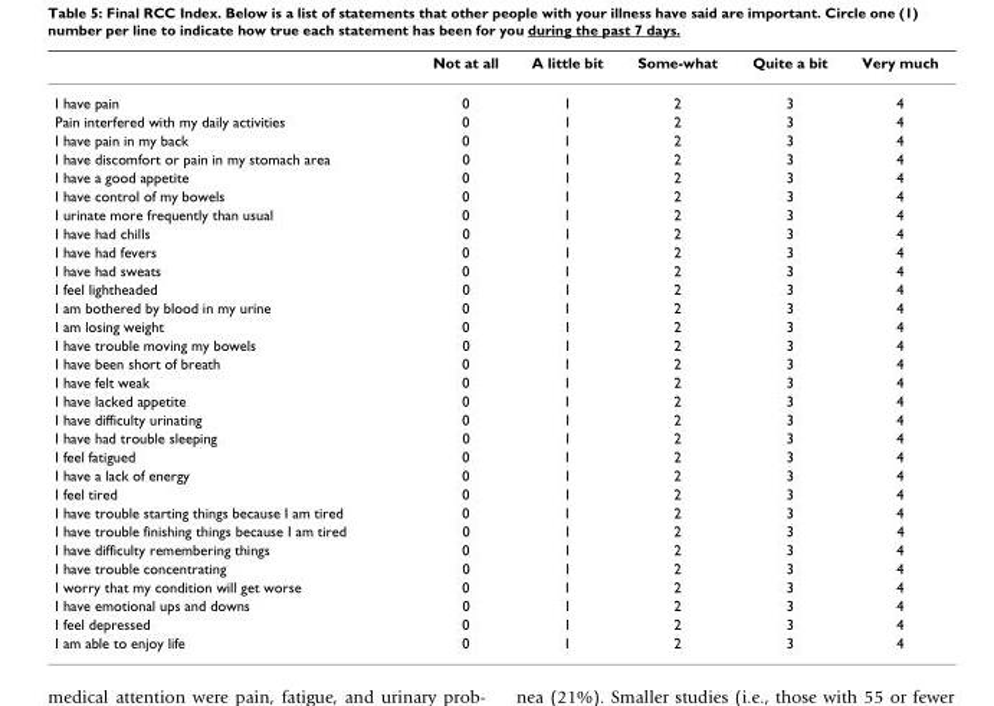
<table><thead><tr><td></td><td>Not at all</td><td>A little bit</td><td>Some-what</td><td>Quite a bit</td><td>Very much</td></tr></thead><tbody><tr><td>I have pain</td><td>0</td><td>1</td><td>2</td><td>3</td><td>4</td></tr><tr><td>Pain interfered with my daily activities</td><td>0</td><td>1</td><td>2</td><td>3</td><td>4</td></tr><tr><td>I have pain in my back</td><td>0</td><td>1</td><td>2</td><td>3</td><td>4</td></tr><tr><td>I have discomfort or pain in my stomach area</td><td>0</td><td>1</td><td>2</td><td>3</td><td>4</td></tr><tr><td>I have a good appetite</td><td>0</td><td>1</td><td>2</td><td>3</td><td>4</td></tr><tr><td>I have control of my bowels</td><td>0</td><td>1</td><td>2</td><td>3</td><td>4</td></tr><tr><td>I urinate more frequently than usual</td><td>0</td><td>1</td><td>2</td><td>3</td><td>4</td></tr><tr><td>I have had chills</td><td>0</td><td>1</td><td>2</td><td>3</td><td>4</td></tr><tr><td>I have had fevers</td><td>0</td><td>1</td><td>2</td><td>3</td><td>4</td></tr><tr><td>I have had sweats</td><td>0</td><td>1</td><td>2</td><td>3</td><td>4</td></tr><tr><td>I feel lightheaded</td><td>0</td><td>1</td><td>2</td><td>3</td><td>4</td></tr><tr><td>I am bothered by blood in my urine</td><td>0</td><td>1</td><td>2</td><td>3</td><td>4</td></tr><tr><td>I am losing weight</td><td>0</td><td>1</td><td>2</td><td>3</td><td>4</td></tr><tr><td>I have trouble moving my bowels</td><td>0</td><td>1</td><td>2</td><td>3</td><td>4</td></tr><tr><td>I have been short of breath</td><td>0</td><td>1</td><td>2</td><td>3</td><td>4</td></tr><tr><td>I have felt weak</td><td>0</td><td>1</td><td>2</td><td>3</td><td>4</td></tr><tr><td>I have lacked appetite</td><td>0</td><td>1</td><td>2</td><td>3</td><td>4</td></tr><tr><td>I have difficulty urinating</td><td>0</td><td>1</td><td>2</td><td>3</td><td>4</td></tr><tr><td>I have had trouble sleeping</td><td>0</td><td>1</td><td>2</td><td>3</td><td>4</td></tr><tr><td>I feel fatigued</td><td>0</td><td>1</td><td>2</td><td>3</td><td>4</td></tr><tr><td>I have a lack of energy</td><td>0</td><td>1</td><td>2</td><td>3</td><td>4</td></tr><tr><td>I feel tired</td><td>0</td><td>1</td><td>2</td><td>3</td><td>4</td></tr><tr><td>I have trouble starting things because I am tired</td><td>0</td><td>1</td><td>2</td><td>3</td><td>4</td></tr><tr><td>I have trouble finishing things because I am tired</td><td>0</td><td>1</td><td>2</td><td>3</td><td>4</td></tr><tr><td>I have difficulty remembering things</td><td>0</td><td>1</td><td>2</td><td>3</td><td>4</td></tr><tr><td>I have trouble concentrating</td><td>0</td><td>1</td><td>2</td><td>3</td><td>4</td></tr><tr><td>I worry that my condition will get worse</td><td>0</td><td>1</td><td>2</td><td>3</td><td>4</td></tr><tr><td>I have emotional ups and downs</td><td>0</td><td>1</td><td>2</td><td>3</td><td>4</td></tr><tr><td>I feel depressed</td><td>0</td><td>1</td><td>2</td><td>3</td><td>4</td></tr><tr><td>I am able to enjoy life</td><td>0</td><td>1</td><td>2</td><td>3</td><td>4</td></tr></tbody></table>